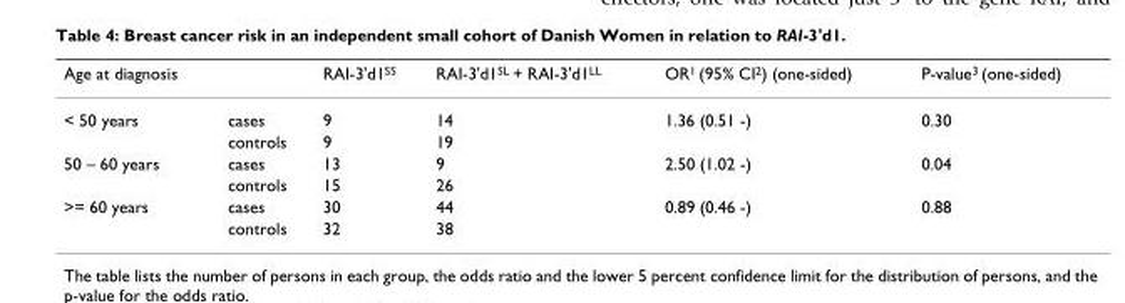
<table><thead><tr><td>Age at diagnosis</td><td></td><td>RAI-3&#x27;d1<sup>SS</sup></td><td>RAI-3&#x27;d1<sup>SL</sup> + RAI-3&#x27;d1<sup>LL</sup></td><td>OR<sup>1</sup> (95% CI<sup>2</sup>) (one-sided)</td><td>P-value<sup>3</sup> (one-sided)</td></tr></thead><tbody><tr><td rowspan="2">&lt; 50 years</td><td>cases</td><td>9</td><td>14</td><td>1.36 (0.51 -)</td><td>0.30</td></tr><tr><td>controls</td><td>9</td><td>19</td><td></td><td></td></tr><tr><td rowspan="2">50 – 60 years</td><td>cases</td><td>13</td><td>9</td><td>2.50 (1.02 -)</td><td>0.04</td></tr><tr><td>controls</td><td>15</td><td>26</td><td></td><td></td></tr><tr><td rowspan="2">&gt;= 60 years</td><td>cases</td><td>30</td><td>44</td><td>0.89 (0.46 -)</td><td>0.88</td></tr><tr><td>controls</td><td>32</td><td>38</td><td></td><td></td></tr></tbody></table>